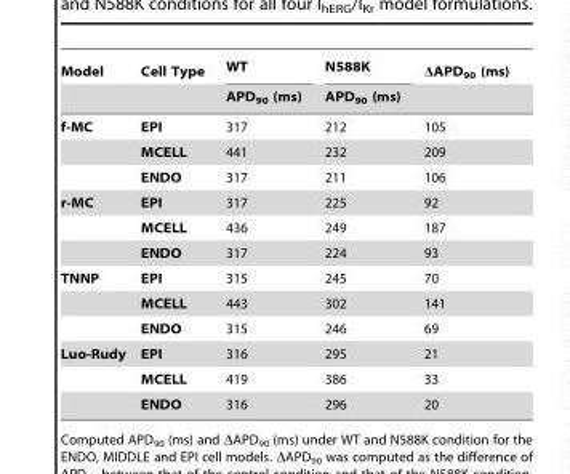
<table><thead><tr><td rowspan="2">Model</td><td rowspan="2">Cell Type</td><td rowspan="2">WT APD<sub>90</sub> (ms)</td><td rowspan="2">N588K APD<sub>90</sub> (ms)</td><td rowspan="2">ΔAPD<sub>90</sub> (ms)</td></tr><tr></tr></thead><tbody><tr><td rowspan="3">f-MC</td><td>EPI</td><td>317</td><td>212</td><td>105</td></tr><tr><td>MCELL</td><td>441</td><td>232</td><td>209</td></tr><tr><td>ENDO</td><td>317</td><td>211</td><td>106</td></tr><tr><td rowspan="3">r-MC</td><td>EPI</td><td>317</td><td>225</td><td>92</td></tr><tr><td>MCELL</td><td>436</td><td>249</td><td>187</td></tr><tr><td>ENDO</td><td>317</td><td>224</td><td>93</td></tr><tr><td rowspan="3">TNNP</td><td>EPI</td><td>315</td><td>245</td><td>70</td></tr><tr><td>MCELL</td><td>443</td><td>302</td><td>141</td></tr><tr><td>ENDO</td><td>315</td><td>246</td><td>69</td></tr><tr><td rowspan="3">Luo-Rudy</td><td>EPI</td><td>316</td><td>295</td><td>21</td></tr><tr><td>MCELL</td><td>419</td><td>386</td><td>33</td></tr><tr><td>ENDO</td><td>316</td><td>296</td><td>20</td></tr></tbody></table>